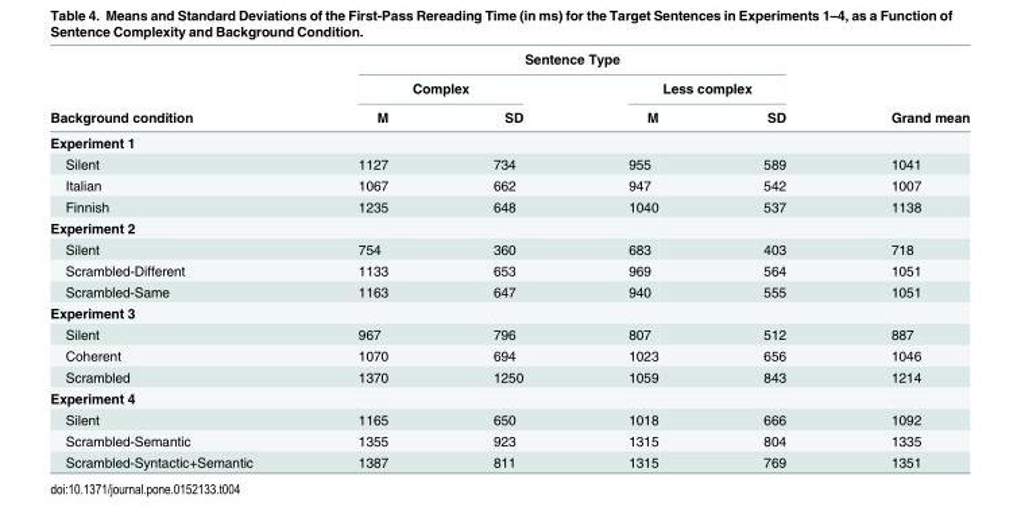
<table><thead><tr><td rowspan="3">Background condition</td><td colspan="4">Sentence Type</td><td rowspan="3">Grand mean</td></tr><tr><td colspan="2">Complex</td><td colspan="2">Less complex</td></tr><tr><td>M</td><td>SD</td><td>M</td><td>SD</td></tr></thead><tbody><tr><td colspan="6">Experiment 1</td></tr><tr><td>Silent</td><td>1127</td><td>734</td><td>955</td><td>589</td><td>1041</td></tr><tr><td>Italian</td><td>1067</td><td>662</td><td>947</td><td>542</td><td>1007</td></tr><tr><td>Finnish</td><td>1235</td><td>648</td><td>1040</td><td>537</td><td>1138</td></tr><tr><td colspan="6">Experiment 2</td></tr><tr><td>Silent</td><td>754</td><td>360</td><td>683</td><td>403</td><td>718</td></tr><tr><td>Scrambled-Different</td><td>1133</td><td>653</td><td>969</td><td>564</td><td>1051</td></tr><tr><td>Scrambled-Same</td><td>1163</td><td>647</td><td>940</td><td>555</td><td>1051</td></tr><tr><td colspan="6">Experiment 3</td></tr><tr><td>Silent</td><td>967</td><td>796</td><td>807</td><td>512</td><td>887</td></tr><tr><td>Coherent</td><td>1070</td><td>694</td><td>1023</td><td>656</td><td>1046</td></tr><tr><td>Scrambled</td><td>1370</td><td>1250</td><td>1059</td><td>843</td><td>1214</td></tr><tr><td colspan="6">Experiment 4</td></tr><tr><td>Silent</td><td>1165</td><td>650</td><td>1018</td><td>666</td><td>1092</td></tr><tr><td>Scrambled-Semantic</td><td>1355</td><td>923</td><td>1315</td><td>804</td><td>1335</td></tr><tr><td>Scrambled-Syntactic+Semantic</td><td>1387</td><td>811</td><td>1315</td><td>769</td><td>1351</td></tr></tbody></table>